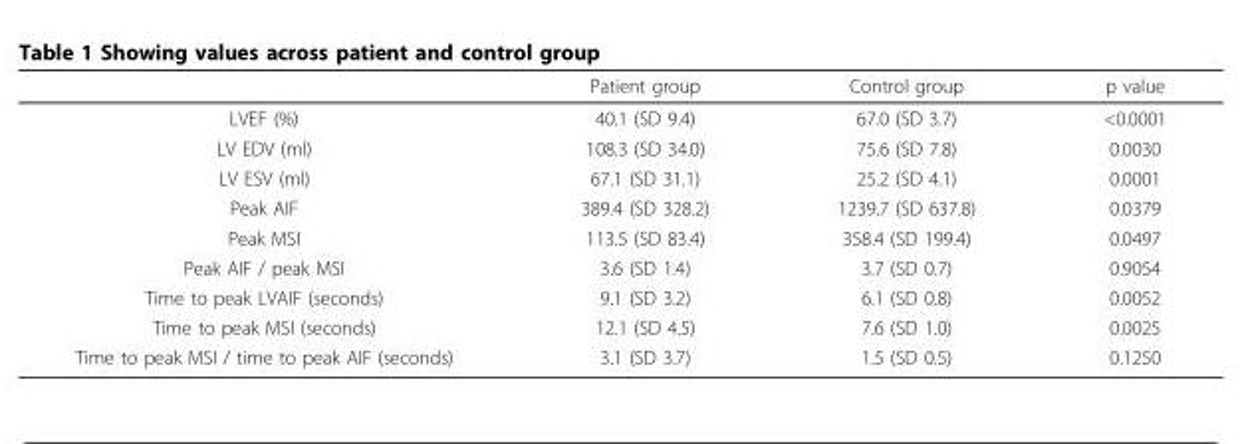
<table><thead><tr><td></td><td>Patient group</td><td>Control group</td><td>p value</td></tr></thead><tbody><tr><td>LVEF (%)</td><td>40.1 (SD 9.4)</td><td>67.0 (SD 3.7)</td><td>&lt;0.0001</td></tr><tr><td>LV EDV (ml)</td><td>108.3 (SD 34.0)</td><td>75.6 (SD 7.8)</td><td>0.0030</td></tr><tr><td>LV ESV (ml)</td><td>67.1 (SD 31.1)</td><td>25.2 (SD 4.1)</td><td>0.0001</td></tr><tr><td>Peak AIF</td><td>389.4 (SD 328.2)</td><td>1239.7 (SD 637.8)</td><td>0.0379</td></tr><tr><td>Peak MSI</td><td>113.5 (SD 83.4)</td><td>358.4 (SD 199.4)</td><td>0.0497</td></tr><tr><td>Peak AIF / peak MSI</td><td>3.6 (SD 1.4)</td><td>3.7 (SD 0.7)</td><td>0.9054</td></tr><tr><td>Time to peak LVAIF (seconds)</td><td>9.1 (SD 3.2)</td><td>6.1 (SD 0.8)</td><td>0.0052</td></tr><tr><td>Time to peak MSI (seconds)</td><td>12.1 (SD 4.5)</td><td>7.6 (SD 1.0)</td><td>0.0025</td></tr><tr><td>Time to peak MSI / time to peak AIF (seconds)</td><td>3.1 (SD 3.7)</td><td>1.5 (SD 0.5)</td><td>0.1250</td></tr></tbody></table>